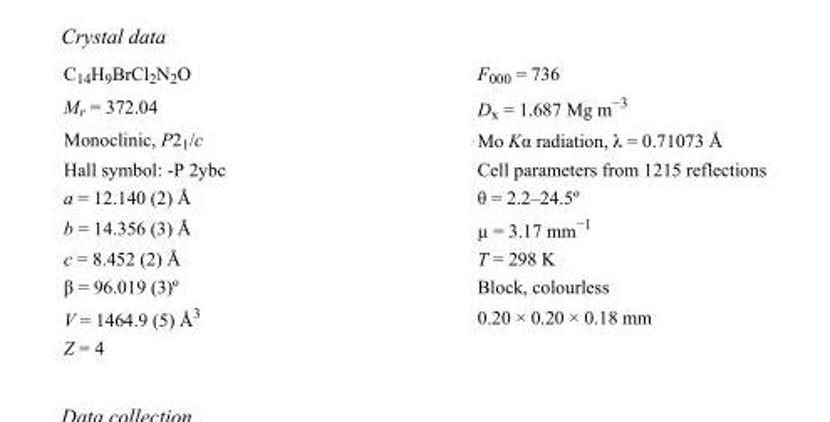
<table><tbody><tr><td>C<sub>14</sub>H<sub>9</sub>BrCl<sub>2</sub>N<sub>2</sub>O</td><td>F000 = 736</td></tr><tr><td>M<sub>r</sub> = 372.04</td><td>D<sub>x</sub> = 1.687 Mg m<sup>−3</sup></td></tr><tr><td>Monoclinic, P2<sub>1</sub>/c</td><td>Mo Kα radiation, λ = 0.71073 Å</td></tr><tr><td>Hall symbol: -P 2ybc</td><td>Cell parameters from 1215 reflections</td></tr><tr><td>a = 12.140 (2) Å</td><td>θ = 2.2–24.5º</td></tr><tr><td>b = 14.356 (3) Å</td><td>µ = 3.17 mm<sup>−1</sup></td></tr><tr><td>c = 8.452 (2) Å</td><td>T = 298 K</td></tr><tr><td>β = 96.019 (3)º</td><td>Block, colourless</td></tr><tr><td>V = 1464.9 (5) Å<sup>3</sup></td><td>0.20 × 0.20 × 0.18 mm</td></tr><tr><td>Z = 4</td><td></td></tr></tbody></table>